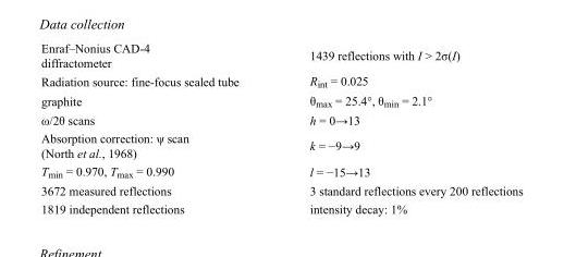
<table><tbody><tr><td>Enraf–Nonius CAD-4 diffractometer</td><td>1439 reflections with I &gt; 2σ(I)</td></tr><tr><td>Radiation source: fine-focus sealed tube</td><td>R<sub>int</sub> = 0.025</td></tr><tr><td>graphite</td><td>θ<sub>max</sub> = 25.4°, θ<sub>min</sub> = 2.1°</td></tr><tr><td>ω/2θ scans</td><td>h = 0→13</td></tr><tr><td>Absorption correction: ψ scan (North et al., 1968)</td><td>k = −9→9</td></tr><tr><td>T<sub>min</sub> = 0.970, T<sub>max</sub> = 0.990</td><td>l = −15→13</td></tr><tr><td>3672 measured reflections</td><td>3 standard reflections every 200 reflections</td></tr><tr><td>1819 independent reflections</td><td>intensity decay: 1%</td></tr></tbody></table>